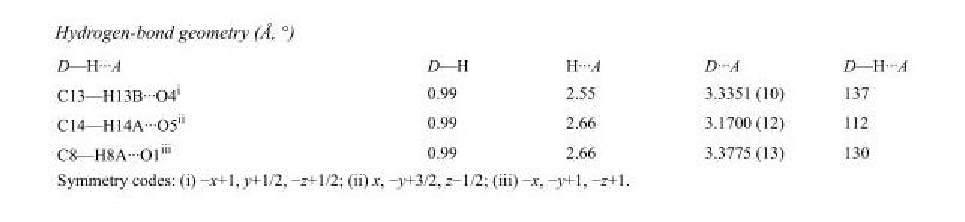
<table><tbody><tr><td>D—H···A</td><td>D—H</td><td>H···A</td><td>D···A</td><td>D—H···A</td></tr><tr><td>C13—H13B···O4<sup>i</sup></td><td>0.99</td><td>2.55</td><td>3.3351 (10)</td><td>137</td></tr><tr><td>C14—H14A···O5<sup>ii</sup></td><td>0.99</td><td>2.66</td><td>3.1700 (12)</td><td>112</td></tr><tr><td>C8—H8A···O1<sup>iii</sup></td><td>0.99</td><td>2.66</td><td>3.3775 (13)</td><td>130</td></tr></tbody></table>